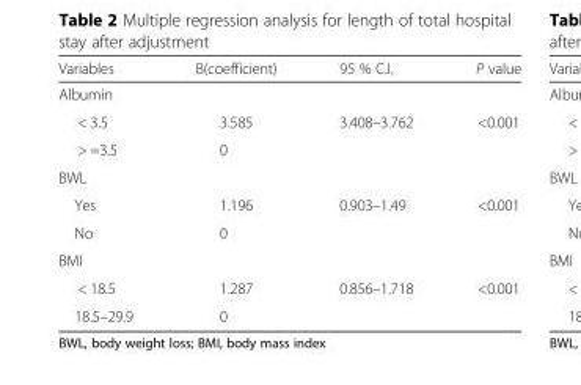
<table><thead><tr><td>Variables</td><td>B(coefficient)</td><td>95 % C.I.</td><td>P value</td></tr></thead><tbody><tr><td colspan="4">Albumin</td></tr><tr><td>&lt; 3.5</td><td>3.585</td><td>3.408–3.762</td><td>&lt;0.001</td></tr><tr><td>&gt; =3.5</td><td>0</td><td></td><td></td></tr><tr><td colspan="4">BWL</td></tr><tr><td>Yes</td><td>1.196</td><td>0.903–1.49</td><td>&lt;0.001</td></tr><tr><td>No</td><td>0</td><td></td><td></td></tr><tr><td colspan="4">BMI</td></tr><tr><td>&lt; 18.5</td><td>1.287</td><td>0.856–1.718</td><td>&lt;0.001</td></tr><tr><td>18.5–29.9</td><td>0</td><td></td><td></td></tr></tbody></table>